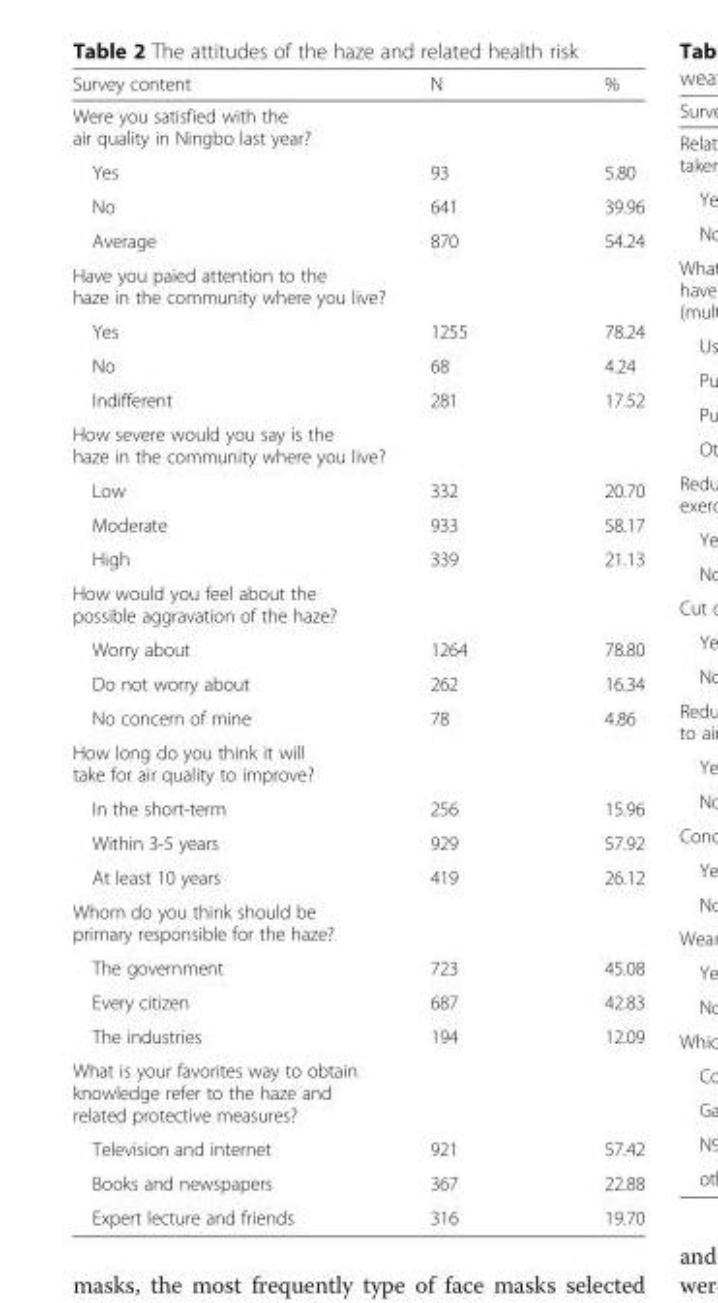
<table><thead><tr><td>Survey content</td><td>N</td><td>%</td></tr></thead><tbody><tr><td colspan="3">Were you satisfied with the air quality in Ningbo last year?</td></tr><tr><td>Yes</td><td>93</td><td>5.80</td></tr><tr><td>No</td><td>641</td><td>39.96</td></tr><tr><td>Average</td><td>870</td><td>54.24</td></tr><tr><td colspan="3">Have you paied attention to the haze in the community where you live?</td></tr><tr><td>Yes</td><td>1255</td><td>78.24</td></tr><tr><td>No</td><td>68</td><td>4.24</td></tr><tr><td>Indifferent</td><td>281</td><td>17.52</td></tr><tr><td colspan="3">How severe would you say is the haze in the community where you live?</td></tr><tr><td>Low</td><td>332</td><td>20.70</td></tr><tr><td>Moderate</td><td>933</td><td>58.17</td></tr><tr><td>High</td><td>339</td><td>21.13</td></tr><tr><td colspan="3">How would you feel about the possible aggravation of the haze?</td></tr><tr><td>Worry about</td><td>1264</td><td>78.80</td></tr><tr><td>Do not worry about</td><td>262</td><td>16.34</td></tr><tr><td>No concern of mine</td><td>78</td><td>4.86</td></tr><tr><td colspan="3">How long do you think it will take for air quality to improve?</td></tr><tr><td>In the short-term</td><td>256</td><td>15.96</td></tr><tr><td>Within 3-5 years</td><td>929</td><td>57.92</td></tr><tr><td>At least 10 years</td><td>419</td><td>26.12</td></tr><tr><td colspan="3">Whom do you think should be primary responsible for the haze?</td></tr><tr><td>The government</td><td>723</td><td>45.08</td></tr><tr><td>Every citizen</td><td>687</td><td>42.83</td></tr><tr><td>The industries</td><td>194</td><td>12.09</td></tr><tr><td colspan="3">What is your favorites way to obtain knowledge refer to the haze and related protective measures?</td></tr><tr><td>Television and internet</td><td>921</td><td>57.42</td></tr><tr><td>Books and newspapers</td><td>367</td><td>22.88</td></tr><tr><td>Expert lecture and friends</td><td>316</td><td>19.70</td></tr></tbody></table>